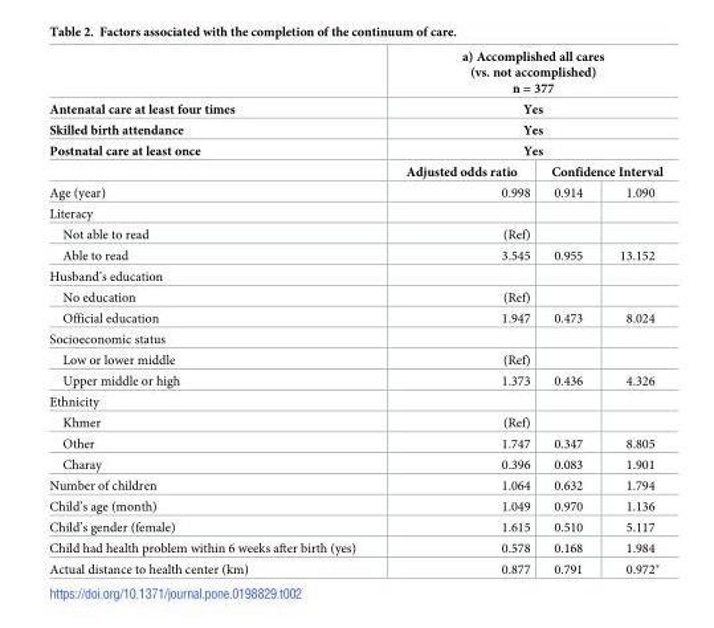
<table><thead><tr><td rowspan="6">Antenatal care at least four times Skilled birth attendance Postnatal care at least once Age (year)</td><td rowspan="4" colspan="3">a) Accomplished all cares (vs. not accomplished) n = 377 Yes Yes Yes</td></tr><tr></tr><tr></tr><tr></tr><tr><td rowspan="2">Adjusted odds ratio 0.998</td><td colspan="2">Confidence Interval</td></tr><tr><td>0.914</td><td>1.090</td></tr></thead><tbody><tr><td colspan="4">Literacy</td></tr><tr><td>Not able to read</td><td>(Ref)</td><td></td><td></td></tr><tr><td>Able to read</td><td>3.545</td><td>0.955</td><td>13.152</td></tr><tr><td colspan="4">Husband’s education</td></tr><tr><td>No education</td><td>(Ref)</td><td></td><td></td></tr><tr><td>Official education</td><td>1.947</td><td>0.473</td><td>8.024</td></tr><tr><td colspan="4">Socioeconomic status</td></tr><tr><td>Low or lower middle</td><td>(Ref)</td><td></td><td></td></tr><tr><td>Upper middle or high</td><td>1.373</td><td>0.436</td><td>4.326</td></tr><tr><td colspan="4">Ethnicity</td></tr><tr><td>Khmer</td><td>(Ref)</td><td></td><td></td></tr><tr><td>Other</td><td>1.747</td><td>0.347</td><td>8.805</td></tr><tr><td>Charay</td><td>0.396</td><td>0.083</td><td>1.901</td></tr><tr><td>Number of children</td><td>1.064</td><td>0.632</td><td>1.794</td></tr><tr><td>Child’s age (month)</td><td>1.049</td><td>0.970</td><td>1.136</td></tr><tr><td>Child’s gender (female)</td><td>1.615</td><td>0.510</td><td>5.117</td></tr><tr><td>Child had health problem within 6 weeks after birth (yes)</td><td>0.578</td><td>0.168</td><td>1.984</td></tr><tr><td>Actual distance to health center (km)</td><td>0.877</td><td>0.791</td><td>0.972*</td></tr></tbody></table>